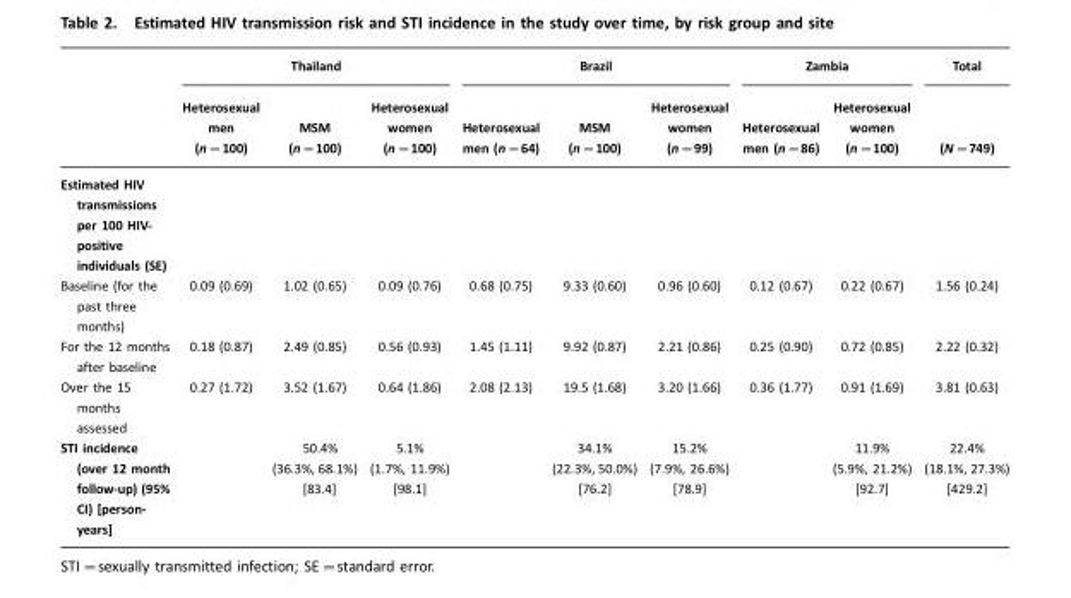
<table><thead><tr><td rowspan="2"></td><td colspan="3">Thailand</td><td colspan="3">Brazil</td><td colspan="2">Zambia</td><td rowspan="2">Total (N=749)</td></tr><tr><td>Heterosexual men (n=100)</td><td>MSM (n=100)</td><td>Heterosexual women (n=100)</td><td>Heterosexual men (n=64)</td><td>MSM (n=100)</td><td>Heterosexual women (n=99)</td><td>Heterosexual men (n=86)</td><td>Heterosexual women (n=100)</td></tr></thead><tbody><tr><td colspan="10">Estimated HIV transmissions per 100 HIV- positive individuals (SE)</td></tr><tr><td>Baseline (for the past three months)</td><td>0.09 (0.69)</td><td>1.02 (0.65)</td><td>0.09 (0.76)</td><td>0.68 (0.75)</td><td>9.33 (0.60)</td><td>0.96 (0.60)</td><td>0.12 (0.67)</td><td>0.22 (0.67)</td><td>1.56 (0.24)</td></tr><tr><td>For the 12 months after baseline</td><td>0.18 (0.87)</td><td>2.49 (0.85)</td><td>0.56 (0.93)</td><td>1.45 (1.11)</td><td>9.92 (0.87)</td><td>2.21 (0.86)</td><td>0.25 (0.90)</td><td>0.72 (0.85)</td><td>2.22 (0.32)</td></tr><tr><td>Over the 15 months assessed</td><td>0.27 (1.72)</td><td>3.52 (1.67)</td><td>0.64 (1.86)</td><td>2.08 (2.13)</td><td>19.5 (1.68)</td><td>3.20 (1.66)</td><td>0.36 (1.77)</td><td>0.91 (1.69)</td><td>3.81 (0.63)</td></tr><tr><td>STI incidence (over 12 month follow-up) (95% CI) [person- years]</td><td></td><td>50.4% (36.3%, 68.1%) [83.4]</td><td>5.1% (1.7%, 11.9%) [98.1]</td><td></td><td>34.1% (22.3%, 50.0%) [76.2]</td><td>15.2% (7.9%, 26.6%) [78.9]</td><td></td><td>11.9% (5.9%, 21.2%) [92.7]</td><td>22.4% (18.1%, 27.3%) [429.2]</td></tr></tbody></table>